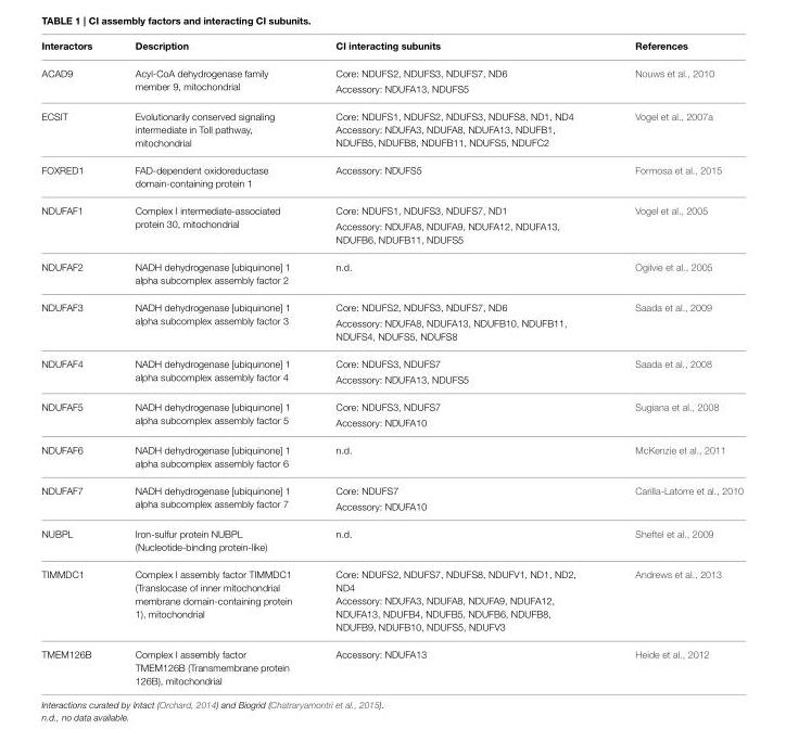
<table><thead><tr><td>Interactors</td><td>Description</td><td>CI interacting subunits</td><td>References</td></tr></thead><tbody><tr><td rowspan="2">ACAD9</td><td rowspan="2">Acyl-CoA dehydrogenase family member 9, mitochondrial</td><td>Core: NDUFS2, NDUFS3, NDUFS7, ND6</td><td>Nouws et al., 2010</td></tr><tr><td>Accessory: NDUFA13, NDUFS5</td><td></td></tr><tr><td rowspan="2">ECSIT</td><td rowspan="2">Evolutionarily conserved signaling intermediate in Toll pathway, mitochondrial</td><td>Core: NDUFS1, NDUFS2, NDUFS3, NDUFS8, ND1, ND4</td><td>Vogel et al., 2007a</td></tr><tr><td>Accessory: NDUFA3, NDUFA8, NDUFA13, NDUFB1, NDUFB5, NDUFB8, NDUFB11, NDUFS5, NDUFC2</td><td></td></tr><tr><td>FOXRED1</td><td>FAD-dependent oxidoreductase domain-containing protein 1</td><td>Accessory: NDUFS5</td><td>Formosa et al., 2015</td></tr><tr><td rowspan="2">NDUFAF1</td><td rowspan="2">Complex I intermediate-associated protein 30, mitochondrial</td><td>Core: NDUFS1, NDUFS3, NDUFS7, ND1</td><td>Vogel et al., 2005</td></tr><tr><td>Accessory: NDUFA8, NDUFA9, NDUFA12, NDUFA13, NDUFB6, NDUFB11, NDUFS5</td><td></td></tr><tr><td>NDUFAF2</td><td>NADH dehydrogenase [ubiquinone] 1 alpha subcomplex assembly factor 2</td><td>n.d.</td><td>Ogilvie et al., 2005</td></tr><tr><td rowspan="2">NDUFAF3</td><td rowspan="2">NADH dehydrogenase [ubiquinone] 1 alpha subcomplex assembly factor 3</td><td>Core: NDUFS2, NDUFS3, NDUFS7, ND6</td><td>Saada et al., 2009</td></tr><tr><td>Accessory: NDUFA8, NDUFA13, NDUFB10, NDUFB11, NDUFS4, NDUFS5, NDUFS8</td><td></td></tr><tr><td rowspan="2">NDUFAF4</td><td rowspan="2">NADH dehydrogenase [ubiquinone] 1 alpha subcomplex assembly factor 4</td><td>Core: NDUFS3, NDUFS7</td><td>Saada et al., 2008</td></tr><tr><td>Accessory: NDUFA13, NDUFS5</td><td></td></tr><tr><td rowspan="2">NDUFAF5</td><td rowspan="2">NADH dehydrogenase [ubiquinone] 1 alpha subcomplex assembly factor 5</td><td>Core: NDUFS3, NDUFS7</td><td>Sugiana et al., 2008</td></tr><tr><td>Accessory: NDUFA10</td><td></td></tr><tr><td>NDUFAF6</td><td>NADH dehydrogenase [ubiquinone] 1 alpha subcomplex assembly factor 6</td><td>n.d.</td><td>McKenzie et al., 2011</td></tr><tr><td rowspan="2">NDUFAF7</td><td rowspan="2">NADH dehydrogenase [ubiquinone] 1 alpha subcomplex assembly factor 7</td><td>Core: NDUFS7</td><td>Carilla-Latorre et al., 2010</td></tr><tr><td>Accessory: NDUFA10</td><td></td></tr><tr><td>NUBPL</td><td>Iron-sulfur protein NUBPL (Nucleotide-binding protein-like)</td><td>n.d.</td><td>Sheftel et al., 2009</td></tr><tr><td rowspan="2">TIMMDC1</td><td rowspan="2">Complex I assembly factor TIMMDC1 (Translocase of inner mitochondrial membrane domain-containing protein 1), mitochondrial</td><td>Core: NDUFS2, NDUFS7, NDUFS8, NDUFV1, ND1, ND2, ND4</td><td>Andrews et al., 2013</td></tr><tr><td>Accessory: NDUFA3, NDUFA8, NDUFA9, NDUFA12, NDUFA13, NDUFB4, NDUFB5, NDUFB6, NDUFB8, NDUFB9, NDUFB10, NDUFS5, NDUFV3</td><td></td></tr><tr><td>TMEM126B</td><td>Complex I assembly factor TMEM126B (Transmembrane protein 126B), mitochondrial</td><td>Accessory: NDUFA13</td><td>Heide et al., 2012</td></tr></tbody></table>